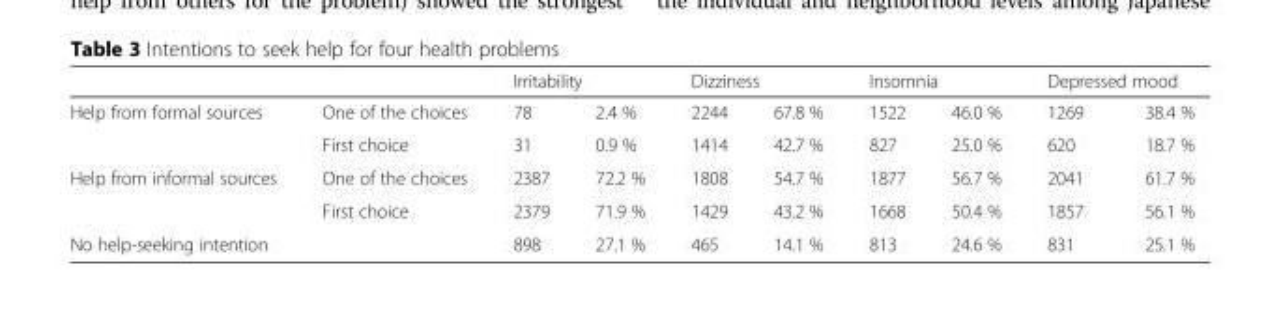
<table><thead><tr><td rowspan="2">Help from formal sources</td><td rowspan="2">One of the choices</td><td colspan="2">Irritability</td><td colspan="2">Dizziness</td><td colspan="2">Insomnia</td><td colspan="2">Depressed mood</td></tr><tr><td>78</td><td>2.4 %</td><td>2244</td><td>67.8 %</td><td>1522</td><td>46.0 %</td><td>1269</td><td>38.4 %</td></tr></thead><tbody><tr><td></td><td>First choice</td><td>31</td><td>0.9 %</td><td>1414</td><td>42.7 %</td><td>827</td><td>25.0 %</td><td>620</td><td>18.7 %</td></tr><tr><td rowspan="2">Help from informal sources</td><td>One of the choices</td><td>2387</td><td>72.2 %</td><td>1808</td><td>54.7 %</td><td>1877</td><td>56.7 %</td><td>2041</td><td>61.7 %</td></tr><tr><td>First choice</td><td>2379</td><td>71.9 %</td><td>1429</td><td>43.2 %</td><td>1668</td><td>50.4 %</td><td>1857</td><td>56.1 %</td></tr><tr><td>No help-seeking intention</td><td></td><td>898</td><td>27.1 %</td><td>465</td><td>14.1 %</td><td>813</td><td>24.6 %</td><td>831</td><td>25.1 %</td></tr></tbody></table>